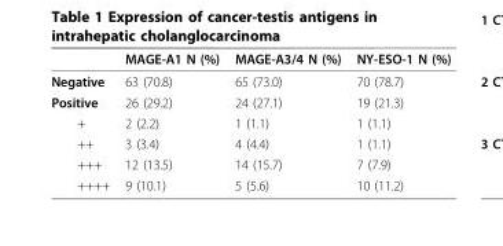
<table><thead><tr><td></td><td>MAGE-A1 N (%)</td><td>MAGE-A3/4 N (%)</td><td>NY-ESO-1 N (%)</td></tr></thead><tbody><tr><td>Negative</td><td>63 (70.8)</td><td>65 (73.0)</td><td>70 (78.7)</td></tr><tr><td>Positive</td><td>26 (29.2)</td><td>24 (27.1)</td><td>19 (21.3)</td></tr><tr><td>+</td><td>2 (2.2)</td><td>1 (1.1)</td><td>1 (1.1)</td></tr><tr><td>++</td><td>3 (3.4)</td><td>4 (4.4)</td><td>1 (1.1)</td></tr><tr><td>+++</td><td>12 (13.5)</td><td>14 (15.7)</td><td>7 (7.9)</td></tr><tr><td>++++</td><td>9 (10.1)</td><td>5 (5.6)</td><td>10 (11.2)</td></tr></tbody></table>